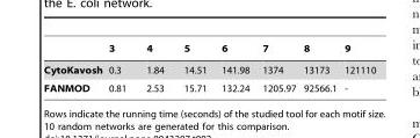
<table><thead><tr><td></td><td>3</td><td>4</td><td>5</td><td>6</td><td>7</td><td>8</td><td>9</td></tr></thead><tbody><tr><td>CytoKavosh</td><td>0.3</td><td>1.84</td><td>14.51</td><td>141.98</td><td>1374</td><td>13173</td><td>121110</td></tr><tr><td>FANMOD</td><td>0.81</td><td>2.53</td><td>15.71</td><td>132.24</td><td>1205.97</td><td>92566.1</td><td>-</td></tr></tbody></table>